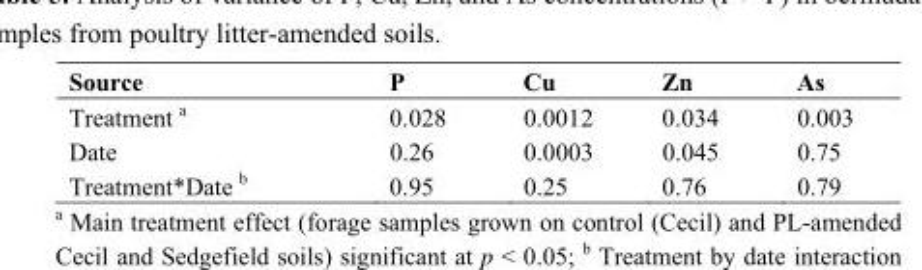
<table><thead><tr><td>Source</td><td>P</td><td>Cu</td><td>Zn</td><td>As</td></tr></thead><tbody><tr><td>Treatment <sup>a</sup></td><td>0.028</td><td>0.0012</td><td>0.034</td><td>0.003</td></tr><tr><td>Date</td><td>0.26</td><td>0.0003</td><td>0.045</td><td>0.75</td></tr><tr><td>Treatment*Date <sup>b</sup></td><td>0.95</td><td>0.25</td><td>0.76</td><td>0.79</td></tr></tbody></table>